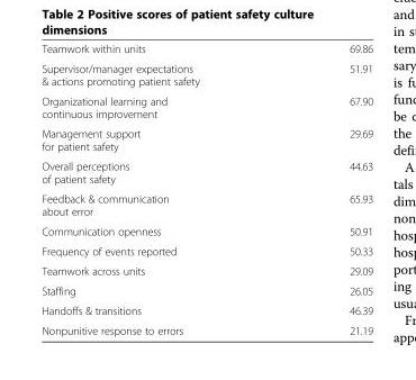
<table><tbody><tr><td>Teamwork within units</td><td>69.86</td></tr><tr><td>Supervisor/manager expectations &amp; actions promoting patient safety</td><td>51.91</td></tr><tr><td>Organizational learning and continuous improvement</td><td>67.90</td></tr><tr><td>Management support for patient safety</td><td>29.69</td></tr><tr><td>Overall perceptions of patient safety</td><td>44.63</td></tr><tr><td>Feedback &amp; communication about error</td><td>65.93</td></tr><tr><td>Communication openness</td><td>50.91</td></tr><tr><td>Frequency of events reported</td><td>50.33</td></tr><tr><td>Teamwork across units</td><td>29.09</td></tr><tr><td>Staffing</td><td>26.05</td></tr><tr><td>Handoffs &amp; transitions</td><td>46.39</td></tr><tr><td>Nonpunitive response to errors</td><td>21.19</td></tr></tbody></table>